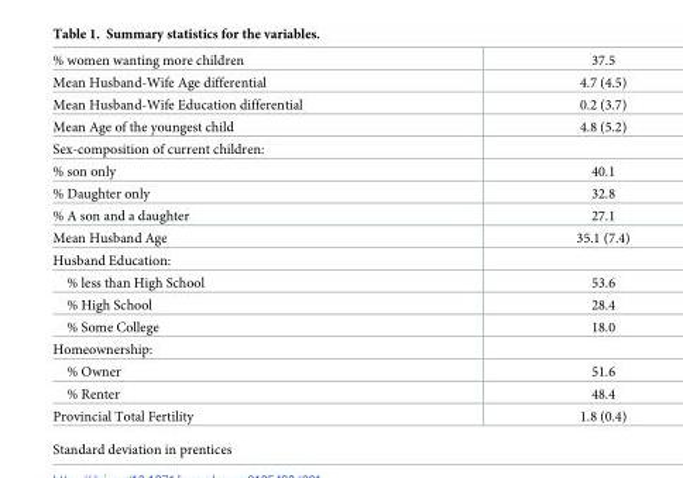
<table><tbody><tr><td>% women wanting more children</td><td>37.5</td></tr><tr><td>Mean Husband-Wife Age differential</td><td>4.7 (4.5)</td></tr><tr><td>Mean Husband-Wife Education differential</td><td>0.2 (3.7)</td></tr><tr><td>Mean Age of the youngest child</td><td>4.8 (5.2)</td></tr><tr><td colspan="2">Sex-composition of current children:</td></tr><tr><td>% son only</td><td>40.1</td></tr><tr><td>% Daughter only</td><td>32.8</td></tr><tr><td>% A son and a daughter</td><td>27.1</td></tr><tr><td>Mean Husband Age</td><td>35.1 (7.4)</td></tr><tr><td colspan="2">Husband Education:</td></tr><tr><td>% less than High School</td><td>53.6</td></tr><tr><td>% High School</td><td>28.4</td></tr><tr><td>% Some College</td><td>18.0</td></tr><tr><td colspan="2">Homeownership:</td></tr><tr><td>% Owner</td><td>51.6</td></tr><tr><td>% Renter</td><td>48.4</td></tr><tr><td>Provincial Total Fertility</td><td>1.8 (0.4)</td></tr></tbody></table>